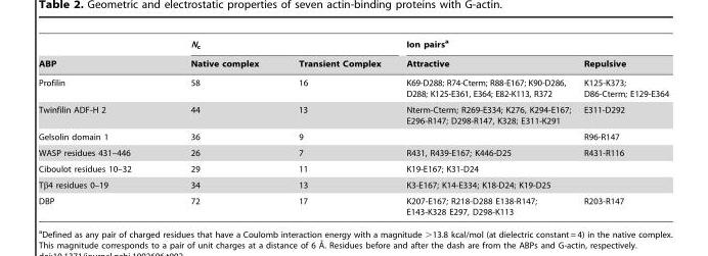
<table><thead><tr><td rowspan="2">ABP</td><td colspan="2">N<sub>c</sub></td><td colspan="2">Ion pairs<sup>a</sup></td></tr><tr><td>Native complex</td><td>Transient Complex</td><td>Attractive</td><td>Repulsive</td></tr></thead><tbody><tr><td>Profilin</td><td>58</td><td>16</td><td>K69-D288; R74-Cterm; R88-E167; K90-D286, D288; K125-E361, E364; E82-K113, R372</td><td>K125-K373; D86-Cterm; E129-E364</td></tr><tr><td>Twinfilin ADF-H 2</td><td>44</td><td>13</td><td>Nterm-Cterm; R269-E334; K276, K294-E167; E296-R147; D298-R147, K328; E311-K291</td><td>E311-D292</td></tr><tr><td>Gelsolin domain 1</td><td>36</td><td>9</td><td></td><td>R96-R147</td></tr><tr><td>WASP residues 431–446</td><td>26</td><td>7</td><td>R431, R439-E167; K446-D25</td><td>R431-R116</td></tr><tr><td>Ciboulot residues 10–32</td><td>29</td><td>11</td><td>K19-E167; K31-D24</td><td></td></tr><tr><td>Tβ4 residues 0–19</td><td>34</td><td>13</td><td>K3-E167; K14-E334; K18-D24; K19-D25</td><td></td></tr><tr><td>DBP</td><td>72</td><td>17</td><td>K207-E167; R218-D288 E138-R147; E143-K328 E297, D298-K113</td><td>R203-R147</td></tr></tbody></table>